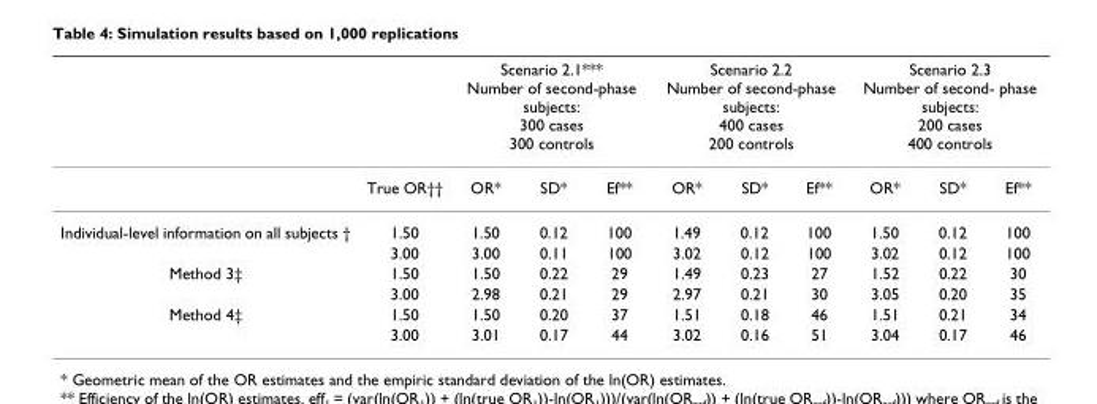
<table><thead><tr><td rowspan="2"></td><td rowspan="2">True OR††</td><td colspan="3">Scenario 2.1*** Number of second-phase subjects: 300 cases 300 controls</td><td colspan="3">Scenario 2.2 Number of second-phase subjects: 400 cases 200 controls</td><td colspan="3">Scenario 2.3 Number of second- phase subjects: 200 cases 400 controls</td></tr><tr><td>OR*</td><td>SD*</td><td>Ef**</td><td>OR*</td><td>SD*</td><td>Ef**</td><td>OR*</td><td>SD*</td><td>Ef**</td></tr></thead><tbody><tr><td rowspan="2">Individual-level information on all subjects †</td><td>1.50</td><td>1.50</td><td>0.12</td><td>100</td><td>1.49</td><td>0.12</td><td>100</td><td>1.50</td><td>0.12</td><td>100</td></tr><tr><td>3.00</td><td>3.00</td><td>0.11</td><td>100</td><td>3.02</td><td>0.12</td><td>100</td><td>3.02</td><td>0.12</td><td>100</td></tr><tr><td rowspan="2">Method 3‡</td><td>1.50</td><td>1.50</td><td>0.22</td><td>29</td><td>1.49</td><td>0.23</td><td>27</td><td>1.52</td><td>0.22</td><td>30</td></tr><tr><td>3.00</td><td>2.98</td><td>0.21</td><td>29</td><td>2.97</td><td>0.21</td><td>30</td><td>3.05</td><td>0.20</td><td>35</td></tr><tr><td rowspan="2">Method 4‡</td><td>1.50</td><td>1.50</td><td>0.20</td><td>37</td><td>1.51</td><td>0.18</td><td>46</td><td>1.51</td><td>0.21</td><td>34</td></tr><tr><td>3.00</td><td>3.01</td><td>0.17</td><td>44</td><td>3.02</td><td>0.16</td><td>51</td><td>3.04</td><td>0.17</td><td>46</td></tr></tbody></table>